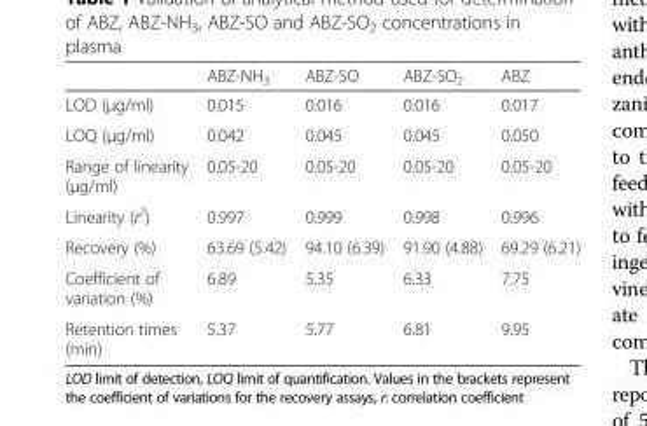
<table><thead><tr><td></td><td>ABZ-NH<sub>3</sub></td><td>ABZ-SO</td><td>ABZ-SO<sub>2</sub></td><td>ABZ</td></tr></thead><tbody><tr><td>LOD (μg/ml)</td><td>0.015</td><td>0.016</td><td>0.016</td><td>0.017</td></tr><tr><td>LOQ (μg/ml)</td><td>0.042</td><td>0.045</td><td>0.045</td><td>0.050</td></tr><tr><td>Range of linearity (μg/ml)</td><td>0.05-20</td><td>0.05-20</td><td>0.05-20</td><td>0.05-20</td></tr><tr><td>Linearity (r<sup>2</sup>)</td><td>0.997</td><td>0.999</td><td>0.998</td><td>0.996</td></tr><tr><td>Recovery (%)</td><td>63.69 (5.42)</td><td>94.10 (6.39)</td><td>91.90 (4.88)</td><td>69.29 (6.21)</td></tr><tr><td>Coefficient of variation (%)</td><td>6.89</td><td>5.35</td><td>6.33</td><td>7.75</td></tr><tr><td>Retention times (min)</td><td>5.37</td><td>5.77</td><td>6.81</td><td>9.95</td></tr></tbody></table>